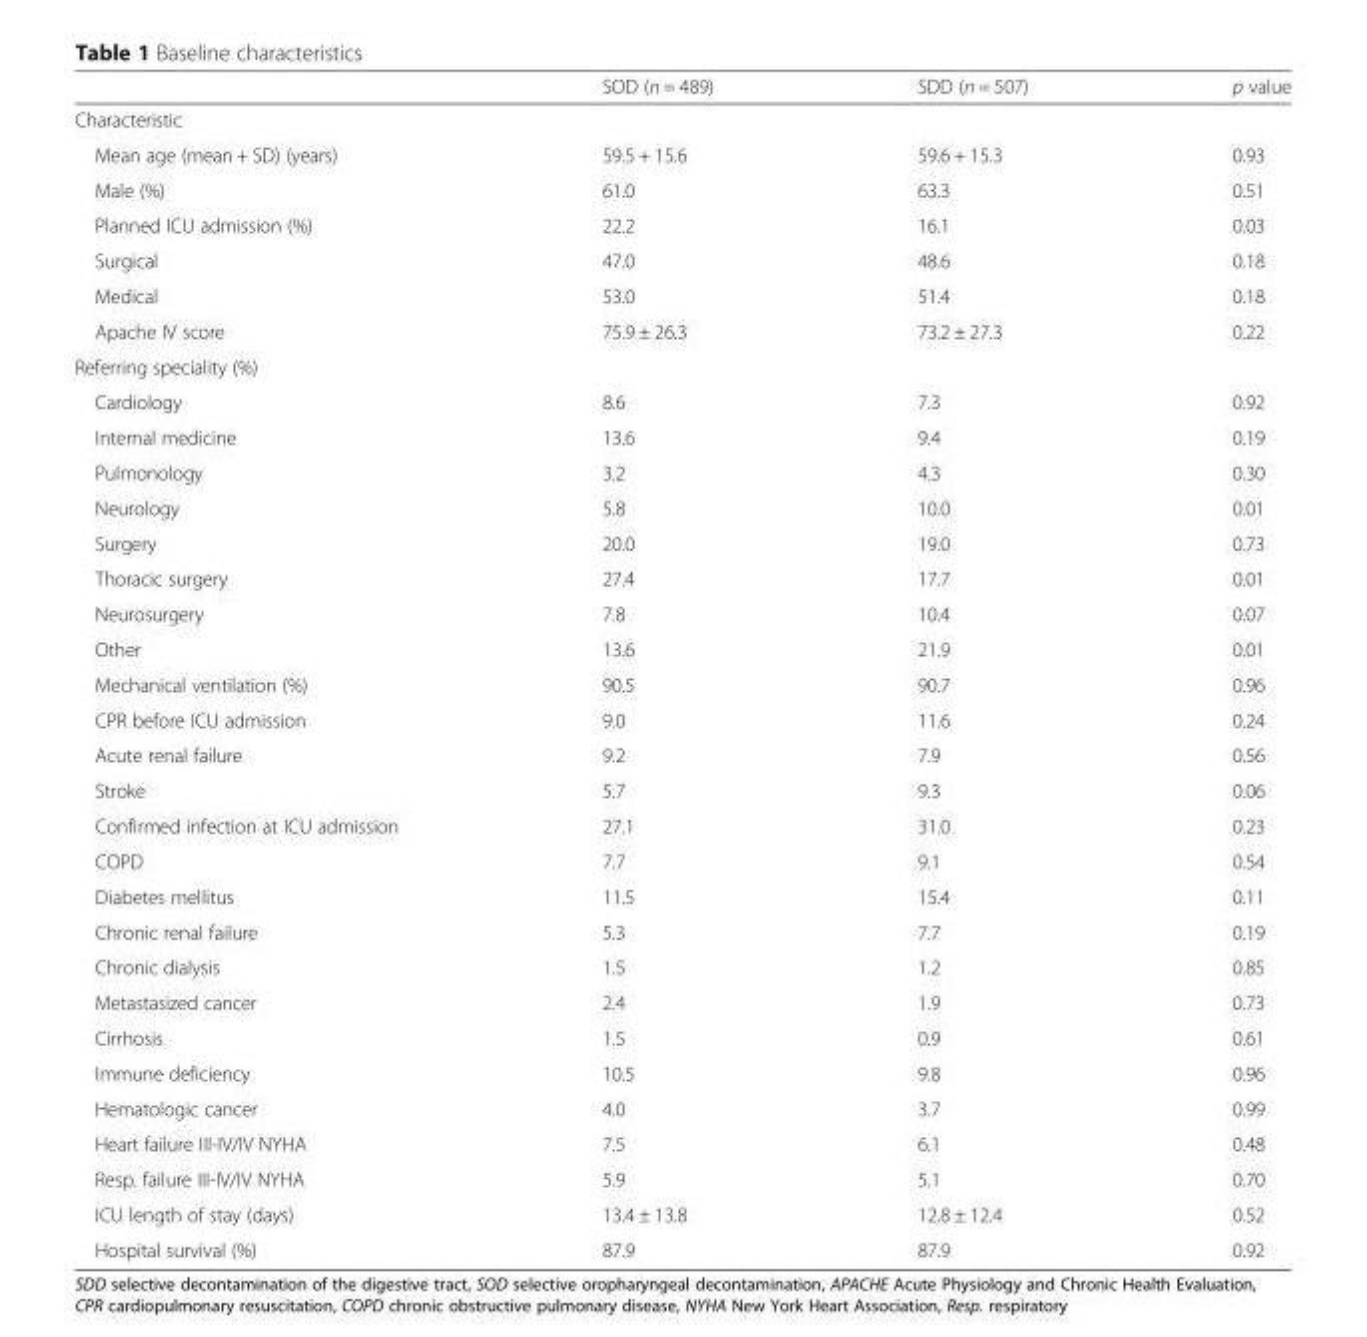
<table><thead><tr><td></td><td>SOD (n = 489)</td><td>SDD (n = 507)</td><td>p value</td></tr></thead><tbody><tr><td colspan="4">Characteristic</td></tr><tr><td>Mean age (mean + SD) (years)</td><td>59.5 + 15.6</td><td>59.6 + 15.3</td><td>0.93</td></tr><tr><td>Male (%)</td><td>61.0</td><td>63.3</td><td>0.51</td></tr><tr><td>Planned ICU admission (%)</td><td>22.2</td><td>16.1</td><td>0.03</td></tr><tr><td>Surgical</td><td>47.0</td><td>48.6</td><td>0.18</td></tr><tr><td>Medical</td><td>53.0</td><td>51.4</td><td>0.18</td></tr><tr><td>Apache IV score</td><td>75.9 ± 26.3</td><td>73.2 ± 27.3</td><td>0.22</td></tr><tr><td colspan="4">Referring speciality (%)</td></tr><tr><td>Cardiology</td><td>8.6</td><td>7.3</td><td>0.92</td></tr><tr><td>Internal medicine</td><td>13.6</td><td>9.4</td><td>0.19</td></tr><tr><td>Pulmonology</td><td>3.2</td><td>4.3</td><td>0.30</td></tr><tr><td>Neurology</td><td>5.8</td><td>10.0</td><td>0.01</td></tr><tr><td>Surgery</td><td>20.0</td><td>19.0</td><td>0.73</td></tr><tr><td>Thoracic surgery</td><td>27.4</td><td>17.7</td><td>0.01</td></tr><tr><td>Neurosurgery</td><td>7.8</td><td>10.4</td><td>0.07</td></tr><tr><td>Other</td><td>13.6</td><td>21.9</td><td>0.01</td></tr><tr><td>Mechanical ventilation (%)</td><td>90.5</td><td>90.7</td><td>0.96</td></tr><tr><td>CPR before ICU admission</td><td>9.0</td><td>11.6</td><td>0.24</td></tr><tr><td>Acute renal failure</td><td>9.2</td><td>7.9</td><td>0.56</td></tr><tr><td>Stroke</td><td>5.7</td><td>9.3</td><td>0.06</td></tr><tr><td>Confirmed infection at ICU admission</td><td>27.1</td><td>31.0</td><td>0.23</td></tr><tr><td>COPD</td><td>7.7</td><td>9.1</td><td>0.54</td></tr><tr><td>Diabetes mellitus</td><td>11.5</td><td>15.4</td><td>0.11</td></tr><tr><td>Chronic renal failure</td><td>5.3</td><td>7.7</td><td>0.19</td></tr><tr><td>Chronic dialysis</td><td>1.5</td><td>1.2</td><td>0.85</td></tr><tr><td>Metastasized cancer</td><td>2.4</td><td>1.9</td><td>0.73</td></tr><tr><td>Cirrhosis</td><td>1.5</td><td>0.9</td><td>0.61</td></tr><tr><td>Immune deficiency</td><td>10.5</td><td>9.8</td><td>0.96</td></tr><tr><td>Hematologic cancer</td><td>4.0</td><td>3.7</td><td>0.99</td></tr><tr><td>Heart failure III-IV/IV NYHA</td><td>7.5</td><td>6.1</td><td>0.48</td></tr><tr><td>Resp. failure III-IV/IV NYHA</td><td>5.9</td><td>5.1</td><td>0.70</td></tr><tr><td>ICU length of stay (days)</td><td>13.4 ± 13.8</td><td>12.8 ± 12.4</td><td>0.52</td></tr><tr><td>Hospital survival (%)</td><td>87.9</td><td>87.9</td><td>0.92</td></tr></tbody></table>